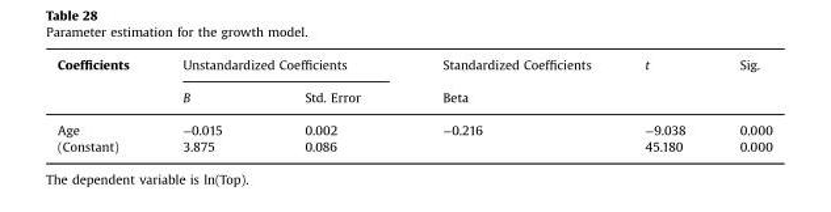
<table><thead><tr><td rowspan="2">Coefficients</td><td colspan="2">Unstandardized Coefficients</td><td rowspan="2">Standardized Coefficients Beta</td><td rowspan="2">t</td><td rowspan="2">Sig.</td></tr><tr><td>B</td><td>Std. Error</td></tr></thead><tbody><tr><td>Age</td><td>−0.015</td><td>0.002</td><td>−0.216</td><td>−9.038</td><td>0.000</td></tr><tr><td>(Constant)</td><td>3.875</td><td>0.086</td><td></td><td>45.180</td><td>0.000</td></tr></tbody></table>